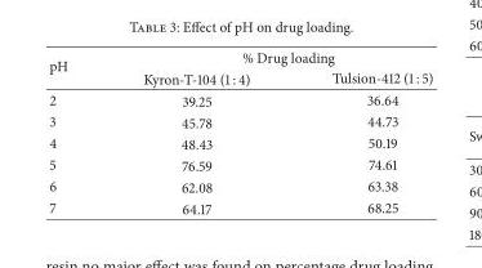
<table><thead><tr><td rowspan="2">pH</td><td colspan="2">% Drug loading</td></tr><tr><td>Kyron-T-104 (1 : 4)</td><td>Tulsion-412 (1 : 5)</td></tr></thead><tbody><tr><td>2</td><td>39.25</td><td>36.64</td></tr><tr><td>3</td><td>45.78</td><td>44.73</td></tr><tr><td>4</td><td>48.43</td><td>50.19</td></tr><tr><td>5</td><td>76.59</td><td>74.61</td></tr><tr><td>6</td><td>62.08</td><td>63.38</td></tr><tr><td>7</td><td>64.17</td><td>68.25</td></tr></tbody></table>